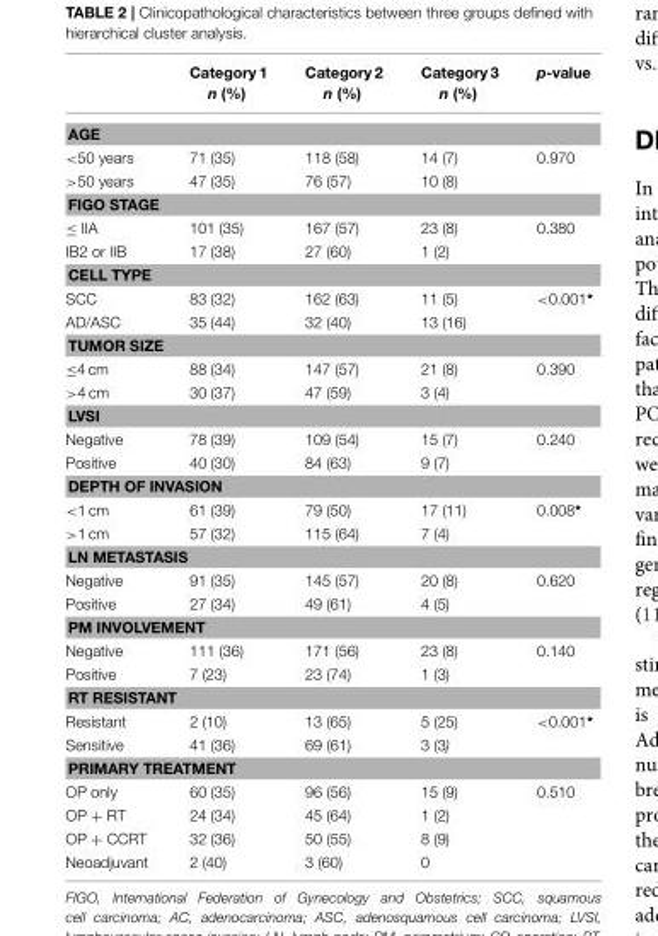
<table><thead><tr><td></td><td>Category 1 n (%)</td><td>Category 2 n (%)</td><td>Category 3 n (%)</td><td>p-value</td></tr></thead><tbody><tr><td colspan="5">AGE</td></tr><tr><td>&lt;50 years</td><td>71 (35)</td><td>118 (58)</td><td>14 (7)</td><td>0.970</td></tr><tr><td>&gt;50 years</td><td>47 (35)</td><td>76 (57)</td><td>10 (8)</td><td></td></tr><tr><td colspan="5">FIGO STAGE</td></tr><tr><td>≤ IIA</td><td>101 (35)</td><td>167 (57)</td><td>23 (8)</td><td>0.380</td></tr><tr><td>IB2 or IIB</td><td>17 (38)</td><td>27 (60)</td><td>1 (2)</td><td></td></tr><tr><td colspan="5">CELL TYPE</td></tr><tr><td>SCC</td><td>83 (32)</td><td>162 (63)</td><td>11 (5)</td><td>&lt;0.001*</td></tr><tr><td>AD/ASC</td><td>35 (44)</td><td>32 (40)</td><td>13 (16)</td><td></td></tr><tr><td colspan="5">TUMOR SIZE</td></tr><tr><td>≤4 cm</td><td>88 (34)</td><td>147 (57)</td><td>21 (8)</td><td>0.390</td></tr><tr><td>&gt;4 cm</td><td>30 (37)</td><td>47 (59)</td><td>3 (4)</td><td></td></tr><tr><td colspan="5">LVSI</td></tr><tr><td>Negative</td><td>78 (39)</td><td>109 (54)</td><td>15 (7)</td><td>0.240</td></tr><tr><td>Positive</td><td>40 (30)</td><td>84 (63)</td><td>9 (7)</td><td></td></tr><tr><td colspan="5">DEPTH OF INVASION</td></tr><tr><td>&lt;1 cm</td><td>61 (39)</td><td>79 (50)</td><td>17 (11)</td><td>0.008*</td></tr><tr><td>&gt;1 cm</td><td>57 (32)</td><td>115 (64)</td><td>7 (4)</td><td></td></tr><tr><td colspan="5">LN METASTASIS</td></tr><tr><td>Negative</td><td>91 (35)</td><td>145 (57)</td><td>20 (8)</td><td>0.620</td></tr><tr><td>Positive</td><td>27 (34)</td><td>49 (61)</td><td>4 (5)</td><td></td></tr><tr><td colspan="5">PM INVOLVEMENT</td></tr><tr><td>Negative</td><td>111 (36)</td><td>171 (56)</td><td>23 (8)</td><td>0.140</td></tr><tr><td>Positive</td><td>7 (23)</td><td>23 (74)</td><td>1 (3)</td><td></td></tr><tr><td colspan="5">RT RESISTANT</td></tr><tr><td>Resistant</td><td>2 (10)</td><td>13 (65)</td><td>5 (25)</td><td>&lt;0.001*</td></tr><tr><td>Sensitive</td><td>41 (36)</td><td>69 (61)</td><td>3 (3)</td><td></td></tr><tr><td colspan="5">PRIMARY TREATMENT</td></tr><tr><td>OP only</td><td>60 (35)</td><td>96 (56)</td><td>15 (9)</td><td>0.510</td></tr><tr><td>OP + RT</td><td>24 (34)</td><td>45 (64)</td><td>1 (2)</td><td></td></tr><tr><td>OP + CCRT</td><td>32 (36)</td><td>50 (55)</td><td>8 (9)</td><td></td></tr><tr><td>Neoadjuvant</td><td>2 (40)</td><td>3 (60)</td><td>0</td><td></td></tr></tbody></table>